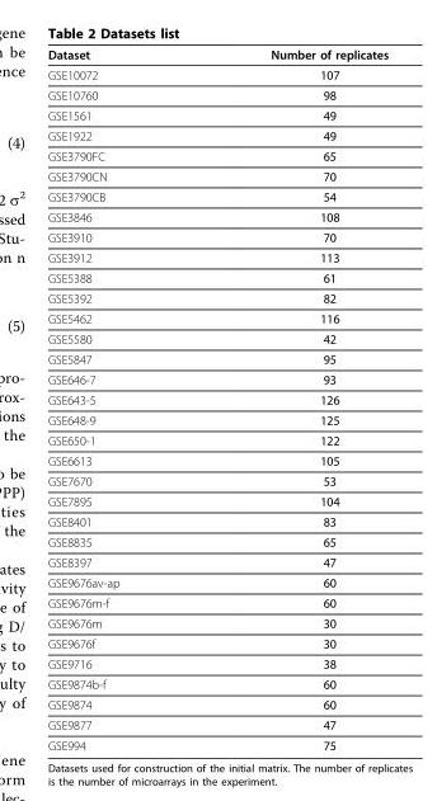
<table><thead><tr><td>Dataset</td><td>Number of replicates</td></tr></thead><tbody><tr><td>GSE10072</td><td>107</td></tr><tr><td>GSE10760</td><td>98</td></tr><tr><td>GSE1561</td><td>49</td></tr><tr><td>GSE1922</td><td>49</td></tr><tr><td>GSE3790FC</td><td>65</td></tr><tr><td>GSE3790CN</td><td>70</td></tr><tr><td>GSE3790CB</td><td>54</td></tr><tr><td>GSE3846</td><td>108</td></tr><tr><td>GSE3910</td><td>70</td></tr><tr><td>GSE3912</td><td>113</td></tr><tr><td>GSE5388</td><td>61</td></tr><tr><td>GSE5392</td><td>82</td></tr><tr><td>GSE5462</td><td>116</td></tr><tr><td>GSE5580</td><td>42</td></tr><tr><td>GSE5847</td><td>95</td></tr><tr><td>GSE646-7</td><td>93</td></tr><tr><td>GSE643-5</td><td>126</td></tr><tr><td>GSE648-9</td><td>125</td></tr><tr><td>GSE650-1</td><td>122</td></tr><tr><td>GSE6613</td><td>105</td></tr><tr><td>GSE7670</td><td>53</td></tr><tr><td>GSE7895</td><td>104</td></tr><tr><td>GSE8401</td><td>83</td></tr><tr><td>GSE8835</td><td>65</td></tr><tr><td>GSE8397</td><td>47</td></tr><tr><td>GSE9676av-ap</td><td>60</td></tr><tr><td>GSE9676m-f</td><td>60</td></tr><tr><td>GSE9676m</td><td>30</td></tr><tr><td>GSE9676f</td><td>30</td></tr><tr><td>GSE9716</td><td>38</td></tr><tr><td>GSE9874b-f</td><td>60</td></tr><tr><td>GSE9874</td><td>60</td></tr><tr><td>GSE9877</td><td>47</td></tr><tr><td>GSE994</td><td>75</td></tr></tbody></table>